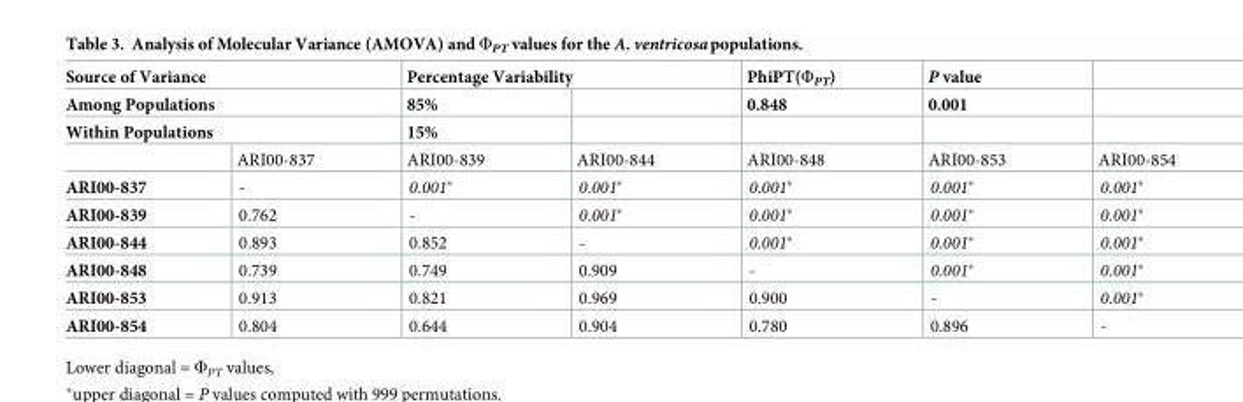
<table><thead><tr><td rowspan="3" colspan="2">Source of Variance Among Populations Within Populations</td><td colspan="2">Percentage Variability</td><td rowspan="4">PhiPT(ΦPT) 0.848 ARI00-848</td><td rowspan="4">P value 0.001 ARI00-853</td><td rowspan="4">ARI00-854</td></tr><tr><td rowspan="3">85% 15% ARI00-839</td><td rowspan="3">ARI00-844</td></tr><tr></tr><tr><td></td><td>ARI00-837</td></tr></thead><tbody><tr><td>ARI00-837</td><td>-</td><td>0.001*</td><td>0.001*</td><td>0.001*</td><td>0.001*</td><td>0.001*</td></tr><tr><td>ARI00-839</td><td>0.762</td><td>-</td><td>0.001*</td><td>0.001*</td><td>0.001*</td><td>0.001*</td></tr><tr><td>ARI00-844</td><td>0.893</td><td>0.852</td><td>-</td><td>0.001*</td><td>0.001*</td><td>0.001*</td></tr><tr><td>ARI00-848</td><td>0.739</td><td>0.749</td><td>0.909</td><td>-</td><td>0.001*</td><td>0.001*</td></tr><tr><td>ARI00-853</td><td>0.913</td><td>0.821</td><td>0.969</td><td>0.900</td><td>-</td><td>0.001*</td></tr><tr><td>ARI00-854</td><td>0.804</td><td>0.644</td><td>0.904</td><td>0.780</td><td>0.896</td><td>-</td></tr></tbody></table>